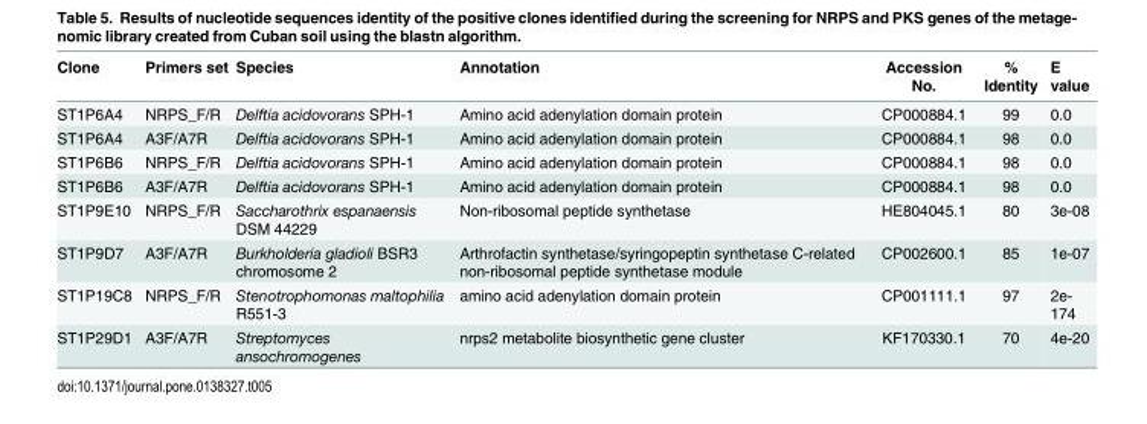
<table><thead><tr><td>Clone</td><td>Primers set</td><td>Species</td><td>Annotation</td><td>Accession No.</td><td>% Identity</td><td>E value</td></tr></thead><tbody><tr><td>ST1P6A4</td><td>NRPS_F/R</td><td>Delftia acidovorans SPH-1</td><td>Amino acid adenylation domain protein</td><td>CP000884.1</td><td>99</td><td>0.0</td></tr><tr><td>ST1P6A4</td><td>A3F/A7R</td><td>Delftia acidovorans SPH-1</td><td>Amino acid adenylation domain protein</td><td>CP000884.1</td><td>98</td><td>0.0</td></tr><tr><td>ST1P6B6</td><td>NRPS_F/R</td><td>Delftia acidovorans SPH-1</td><td>Amino acid adenylation domain protein</td><td>CP000884.1</td><td>98</td><td>0.0</td></tr><tr><td>ST1P6B6</td><td>A3F/A7R</td><td>Delftia acidovorans SPH-1</td><td>Amino acid adenylation domain protein</td><td>CP000884.1</td><td>98</td><td>0.0</td></tr><tr><td>ST1P9E10</td><td>NRPS_F/R</td><td>Saccharothrix espanaensis DSM 44229</td><td>Non-ribosomal peptide synthetase</td><td>HE804045.1</td><td>80</td><td>3e-08</td></tr><tr><td>ST1P9D7</td><td>A3F/A7R</td><td>Burkholderia gladioli BSR3 chromosome 2</td><td>Arthrofactin synthetase/syringopeptin synthetase C-related non-ribosomal peptide synthetase module</td><td>CP002600.1</td><td>85</td><td>1e-07</td></tr><tr><td>ST1P19C8</td><td>NRPS_F/R</td><td>Stenotrophomonas maltophilia R551-3</td><td>amino acid adenylation domain protein</td><td>CP001111.1</td><td>97</td><td>2e- 174</td></tr><tr><td>ST1P29D1</td><td>A3F/A7R</td><td>Streptomyces ansochromogenes</td><td>nrps2 metabolite biosynthetic gene cluster</td><td>KF170330.1</td><td>70</td><td>4e-20</td></tr></tbody></table>